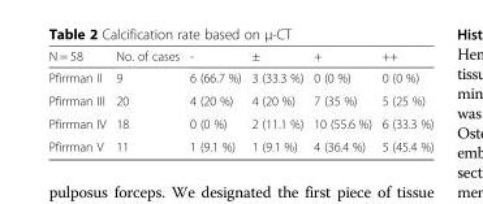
<table><thead><tr><td>N = 58</td><td>No. of cases</td><td>-</td><td>±</td><td>+</td><td>++</td></tr></thead><tbody><tr><td>Pfirrman II</td><td>9</td><td>6 (66.7 %)</td><td>3 (33.3 %)</td><td>0 (0 %)</td><td>0 (0 %)</td></tr><tr><td>Pfirrman III</td><td>20</td><td>4 (20 %)</td><td>4 (20 %)</td><td>7 (35 %)</td><td>5 (25 %)</td></tr><tr><td>Pfirrman IV</td><td>18</td><td>0 (0 %)</td><td>2 (11.1 %)</td><td>10 (55.6 %)</td><td>6 (33.3 %)</td></tr><tr><td>Pfirrman V</td><td>11</td><td>1 (9.1 %)</td><td>1 (9.1 %)</td><td>4 (36.4 %)</td><td>5 (45.4 %)</td></tr></tbody></table>